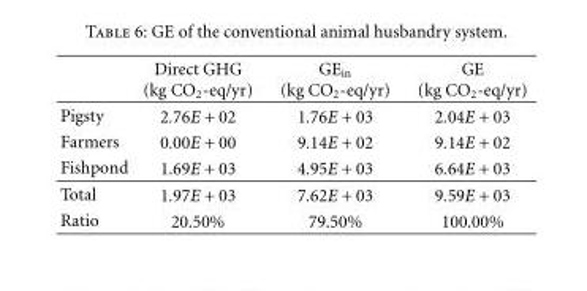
<table><thead><tr><td></td><td>Direct GHG (kg CO<sub>2</sub>-eq/yr)</td><td>GE<sub>in</sub> (kg CO<sub>2</sub>-eq/yr)</td><td>GE (kg CO<sub>2</sub>-eq/yr)</td></tr></thead><tbody><tr><td>Pigsty</td><td>2.76E + 02</td><td>1.76E + 03</td><td>2.04E + 03</td></tr><tr><td>Farmers</td><td>0.00E + 00</td><td>9.14E + 02</td><td>9.14E + 02</td></tr><tr><td>Fishpond</td><td>1.69E + 03</td><td>4.95E + 03</td><td>6.64E + 03</td></tr><tr><td>Total</td><td>1.97E + 03</td><td>7.62E + 03</td><td>9.59E + 03</td></tr><tr><td>Ratio</td><td>20.50%</td><td>79.50%</td><td>100.00%</td></tr></tbody></table>